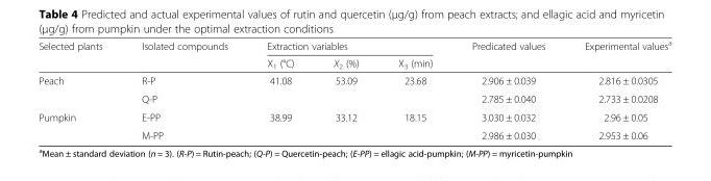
<table><thead><tr><td rowspan="2">Selected plants</td><td rowspan="2">Isolated compounds</td><td colspan="3">Extraction variables</td><td rowspan="2">Predicated values</td><td rowspan="2">Experimental values<sup>a</sup></td></tr><tr><td>X<sub>1</sub> (°C)</td><td>X<sub>2</sub> (%)</td><td>X<sub>3</sub> (min)</td></tr></thead><tbody><tr><td rowspan="2">Peach</td><td>R-P</td><td rowspan="2">41.08</td><td rowspan="2">53.09</td><td rowspan="2">23.68</td><td>2.906 ± 0.039</td><td>2.816 ± 0.0305</td></tr><tr><td>Q-P</td><td>2.785 ± 0.040</td><td>2.733 ± 0.0208</td></tr><tr><td rowspan="2">Pumpkin</td><td>E-PP</td><td rowspan="2">38.99</td><td rowspan="2">33.12</td><td rowspan="2">18.15</td><td>3.030 ± 0.032</td><td>2.96 ± 0.05</td></tr><tr><td>M-PP</td><td>2.986 ± 0.030</td><td>2.953 ± 0.06</td></tr></tbody></table>